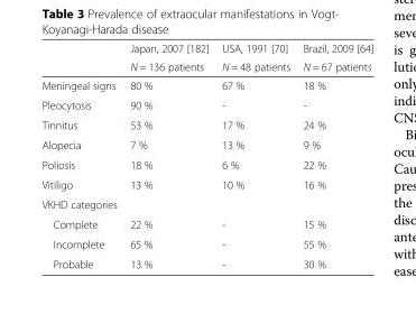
<table><thead><tr><td rowspan="2"></td><td rowspan="2">Japan, 2007 [182] N = 136 patients</td><td rowspan="2">USA, 1991 [70] N = 48 patients</td><td rowspan="2">Brazil, 2009 [64] N = 67 patients</td></tr><tr></tr></thead><tbody><tr><td>Meningeal signs</td><td>80 %</td><td>67 %</td><td>18 %</td></tr><tr><td>Pleocytosis</td><td>90 %</td><td>-</td><td>-</td></tr><tr><td>Tinnitus</td><td>53 %</td><td>17 %</td><td>24 %</td></tr><tr><td>Alopecia</td><td>7 %</td><td>13 %</td><td>9 %</td></tr><tr><td>Poliosis</td><td>18 %</td><td>6 %</td><td>22 %</td></tr><tr><td>Vitiligo</td><td>13 %</td><td>10 %</td><td>16 %</td></tr><tr><td colspan="4">VKHD categories</td></tr><tr><td>Complete</td><td>22 %</td><td>-</td><td>15 %</td></tr><tr><td>Incomplete</td><td>65 %</td><td>-</td><td>55 %</td></tr><tr><td>Probable</td><td>13 %</td><td>-</td><td>30 %</td></tr></tbody></table>